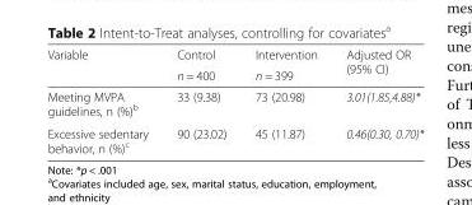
<table><thead><tr><td rowspan="2">Variable</td><td rowspan="2">Control n = 400</td><td rowspan="2">Intervention n = 399</td><td rowspan="2">Adjusted OR (95% CI)</td></tr><tr></tr></thead><tbody><tr><td>Meeting MVPA guidelines, n (%)<sup>b</sup></td><td>33 (9.38)</td><td>73 (20.98)</td><td>3.01(1.85,4.88)*</td></tr><tr><td>Excessive sedentary behavior, n (%)<sup>c</sup></td><td>90 (23.02)</td><td>45 (11.87)</td><td>0.46(0.30, 0.70)*</td></tr></tbody></table>